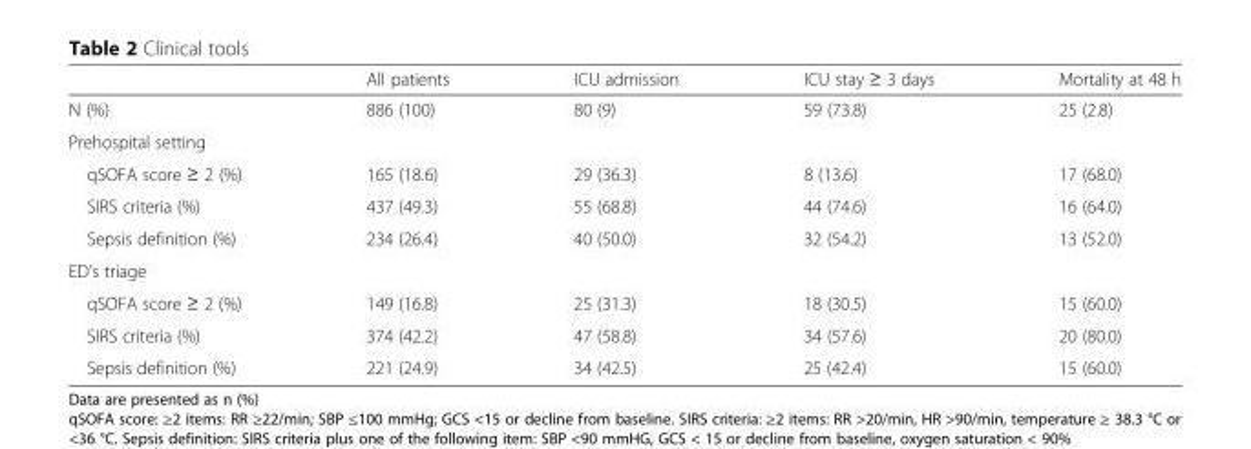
<table><thead><tr><td></td><td>All patients</td><td>ICU admission</td><td>ICU stay ≥ 3 days</td><td>Mortality at 48 h</td></tr></thead><tbody><tr><td>N (%)</td><td>886 (100)</td><td>80 (9)</td><td>59 (73.8)</td><td>25 (2.8)</td></tr><tr><td colspan="5">Prehospital setting</td></tr><tr><td>qSOFA score ≥ 2 (%)</td><td>165 (18.6)</td><td>29 (36.3)</td><td>8 (13.6)</td><td>17 (68.0)</td></tr><tr><td>SIRS criteria (%)</td><td>437 (49.3)</td><td>55 (68.8)</td><td>44 (74.6)</td><td>16 (64.0)</td></tr><tr><td>Sepsis definition (%)</td><td>234 (26.4)</td><td>40 (50.0)</td><td>32 (54.2)</td><td>13 (52.0)</td></tr><tr><td colspan="5">ED’s triage</td></tr><tr><td>qSOFA score ≥ 2 (%)</td><td>149 (16.8)</td><td>25 (31.3)</td><td>18 (30.5)</td><td>15 (60.0)</td></tr><tr><td>SIRS criteria (%)</td><td>374 (42.2)</td><td>47 (58.8)</td><td>34 (57.6)</td><td>20 (80.0)</td></tr><tr><td>Sepsis definition (%)</td><td>221 (24.9)</td><td>34 (42.5)</td><td>25 (42.4)</td><td>15 (60.0)</td></tr></tbody></table>